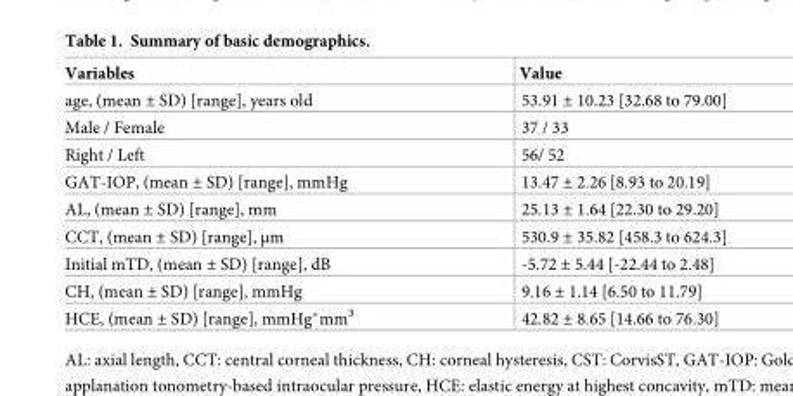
<table><thead><tr><td>Variables</td><td>Value</td></tr></thead><tbody><tr><td>age, (mean ± SD) [range], years old</td><td>53.91 ± 10.23 [32.68 to 79.00]</td></tr><tr><td>Male / Female</td><td>37 / 33</td></tr><tr><td>Right / Left</td><td>56/ 52</td></tr><tr><td>GAT-IOP, (mean ± SD) [range], mmHg</td><td>13.47 ± 2.26 [8.93 to 20.19]</td></tr><tr><td>AL, (mean ± SD) [range], mm</td><td>25.13 ± 1.64 [22.30 to 29.20]</td></tr><tr><td>CCT, (mean ± SD) [range], μm</td><td>530.9 ± 35.82 [458.3 to 624.3]</td></tr><tr><td>Initial mTD, (mean ± SD) [range], dB</td><td>-5.72 ± 5.44 [-22.44 to 2.48]</td></tr><tr><td>CH, (mean ± SD) [range], mmHg</td><td>9.16 ± 1.14 [6.50 to 11.79]</td></tr><tr><td>HCE, (mean ± SD) [range], mmHg*mm<sup>3</sup></td><td>42.82 ± 8.65 [14.66 to 76.30]</td></tr></tbody></table>